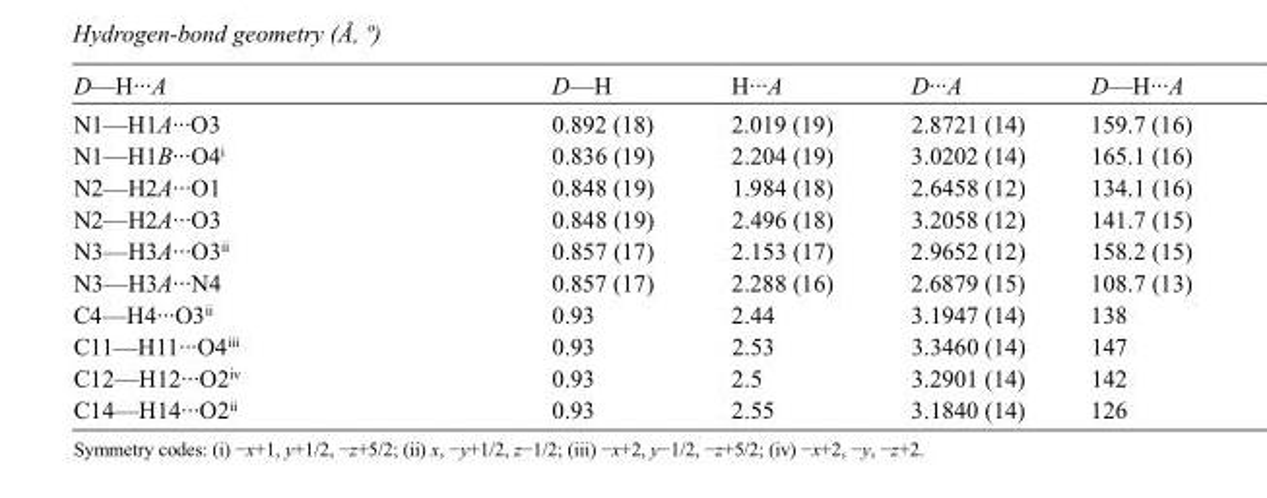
<table><tbody><tr><td>D—H···A</td><td>D—H</td><td>H···A</td><td>D···A</td><td>D—H···A</td></tr><tr><td>N1—H1A···O3</td><td>0.892 (18)</td><td>2.019 (19)</td><td>2.8721 (14)</td><td>159.7 (16)</td></tr><tr><td>N1—H1B···O4<sup>i</sup></td><td>0.836 (19)</td><td>2.204 (19)</td><td>3.0202 (14)</td><td>165.1 (16)</td></tr><tr><td>N2—H2A···O1</td><td>0.848 (19)</td><td>1.984 (18)</td><td>2.6458 (12)</td><td>134.1 (16)</td></tr><tr><td>N2—H2A···O3</td><td>0.848 (19)</td><td>2.496 (18)</td><td>3.2058 (12)</td><td>141.7 (15)</td></tr><tr><td>N3—H3A···O3<sup>ii</sup></td><td>0.857 (17)</td><td>2.153 (17)</td><td>2.9652 (12)</td><td>158.2 (15)</td></tr><tr><td>N3—H3A···N4</td><td>0.857 (17)</td><td>2.288 (16)</td><td>2.6879 (15)</td><td>108.7 (13)</td></tr><tr><td>C4—H4···O3<sup>ii</sup></td><td>0.93</td><td>2.44</td><td>3.1947 (14)</td><td>138</td></tr><tr><td>C11—H11···O4<sup>iii</sup></td><td>0.93</td><td>2.53</td><td>3.3460 (14)</td><td>147</td></tr><tr><td>C12—H12···O2<sup>iv</sup></td><td>0.93</td><td>2.5</td><td>3.2901 (14)</td><td>142</td></tr><tr><td>C14—H14···O2<sup>ii</sup></td><td>0.93</td><td>2.55</td><td>3.1840 (14)</td><td>126</td></tr></tbody></table>